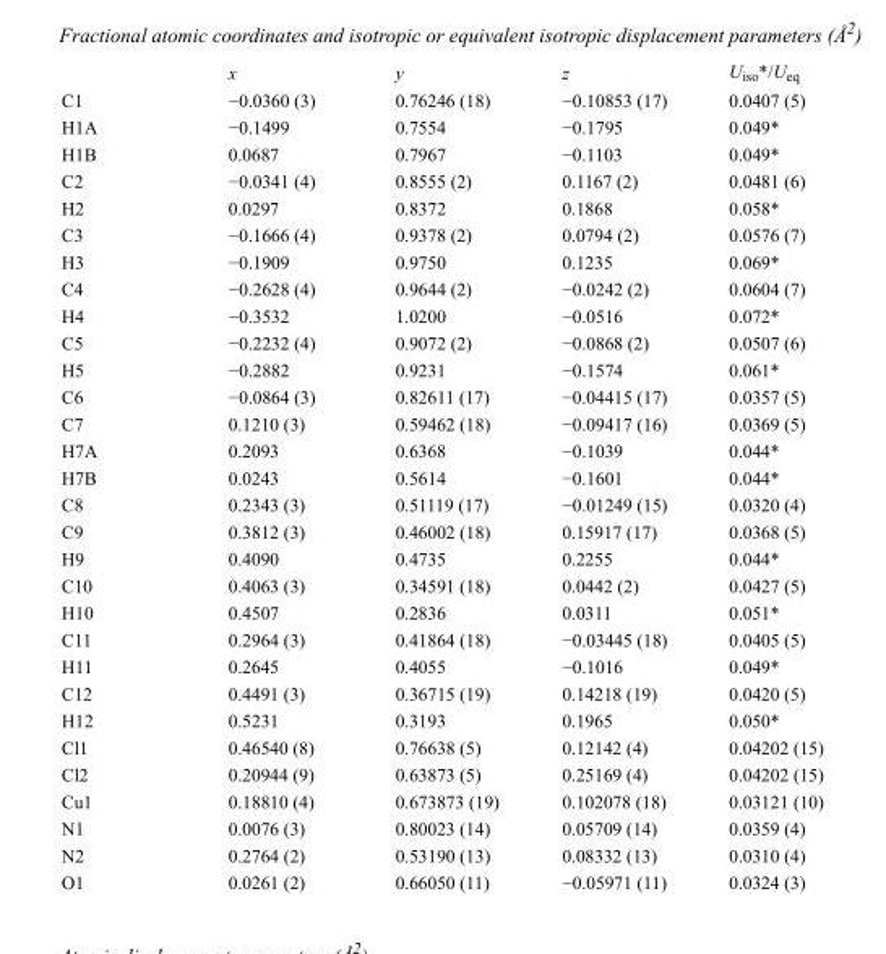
<table><thead><tr><td></td><td>x</td><td>y</td><td>z</td><td>U<sub>iso</sub>*/U<sub>eq</sub></td></tr></thead><tbody><tr><td>C1</td><td>−0.0360 (3)</td><td>0.76246 (18)</td><td>−0.10853 (17)</td><td>0.0407 (5)</td></tr><tr><td>H1A</td><td>−0.1499</td><td>0.7554</td><td>−0.1795</td><td>0.049*</td></tr><tr><td>H1B</td><td>0.0687</td><td>0.7967</td><td>−0.1103</td><td>0.049*</td></tr><tr><td>C2</td><td>−0.0341 (4)</td><td>0.8555 (2)</td><td>0.1167 (2)</td><td>0.0481 (6)</td></tr><tr><td>H2</td><td>0.0297</td><td>0.8372</td><td>0.1868</td><td>0.058*</td></tr><tr><td>C3</td><td>−0.1666 (4)</td><td>0.9378 (2)</td><td>0.0794 (2)</td><td>0.0576 (7)</td></tr><tr><td>H3</td><td>−0.1909</td><td>0.9750</td><td>0.1235</td><td>0.069*</td></tr><tr><td>C4</td><td>−0.2628 (4)</td><td>0.9644 (2)</td><td>−0.0242 (2)</td><td>0.0604 (7)</td></tr><tr><td>H4</td><td>−0.3532</td><td>1.0200</td><td>−0.0516</td><td>0.072*</td></tr><tr><td>C5</td><td>−0.2232 (4)</td><td>0.9072 (2)</td><td>−0.0868 (2)</td><td>0.0507 (6)</td></tr><tr><td>H5</td><td>−0.2882</td><td>0.9231</td><td>−0.1574</td><td>0.061*</td></tr><tr><td>C6</td><td>−0.0864 (3)</td><td>0.82611 (17)</td><td>−0.04415 (17)</td><td>0.0357 (5)</td></tr><tr><td>C7</td><td>0.1210 (3)</td><td>0.59462 (18)</td><td>−0.09417 (16)</td><td>0.0369 (5)</td></tr><tr><td>H7A</td><td>0.2093</td><td>0.6368</td><td>−0.1039</td><td>0.044*</td></tr><tr><td>H7B</td><td>0.0243</td><td>0.5614</td><td>−0.1601</td><td>0.044*</td></tr><tr><td>C8</td><td>0.2343 (3)</td><td>0.51119 (17)</td><td>−0.01249 (15)</td><td>0.0320 (4)</td></tr><tr><td>C9</td><td>0.3812 (3)</td><td>0.46002 (18)</td><td>0.15917 (17)</td><td>0.0368 (5)</td></tr><tr><td>H9</td><td>0.4090</td><td>0.4735</td><td>0.2255</td><td>0.044*</td></tr><tr><td>C10</td><td>0.4063 (3)</td><td>0.34591 (18)</td><td>0.0442 (2)</td><td>0.0427 (5)</td></tr><tr><td>H10</td><td>0.4507</td><td>0.2836</td><td>0.0311</td><td>0.051*</td></tr><tr><td>C11</td><td>0.2964 (3)</td><td>0.41864 (18)</td><td>−0.03445 (18)</td><td>0.0405 (5)</td></tr><tr><td>H11</td><td>0.2645</td><td>0.4055</td><td>−0.1016</td><td>0.049*</td></tr><tr><td>C12</td><td>0.4491 (3)</td><td>0.36715 (19)</td><td>0.14218 (19)</td><td>0.0420 (5)</td></tr><tr><td>H12</td><td>0.5231</td><td>0.3193</td><td>0.1965</td><td>0.050*</td></tr><tr><td>Cl1</td><td>0.46540 (8)</td><td>0.76638 (5)</td><td>0.12142 (4)</td><td>0.04202 (15)</td></tr><tr><td>Cl2</td><td>0.20944 (9)</td><td>0.63873 (5)</td><td>0.25169 (4)</td><td>0.04202 (15)</td></tr><tr><td>Cu1</td><td>0.18810 (4)</td><td>0.673873 (19)</td><td>0.102078 (18)</td><td>0.03121 (10)</td></tr><tr><td>N1</td><td>0.0076 (3)</td><td>0.80023 (14)</td><td>0.05709 (14)</td><td>0.0359 (4)</td></tr><tr><td>N2</td><td>0.2764 (2)</td><td>0.53190 (13)</td><td>0.08332 (13)</td><td>0.0310 (4)</td></tr><tr><td>O1</td><td>0.0261 (2)</td><td>0.66050 (11)</td><td>−0.05971 (11)</td><td>0.0324 (3)</td></tr></tbody></table>